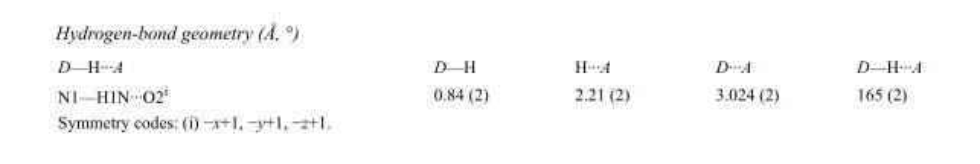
<table><tbody><tr><td>D—H···A</td><td>D—H</td><td>H···A</td><td>D···A</td><td>D—H···A</td></tr><tr><td>N1—H1N···O2<sup>i</sup></td><td>0.84 (2)</td><td>2.21 (2)</td><td>3.024 (2)</td><td>165 (2)</td></tr></tbody></table>